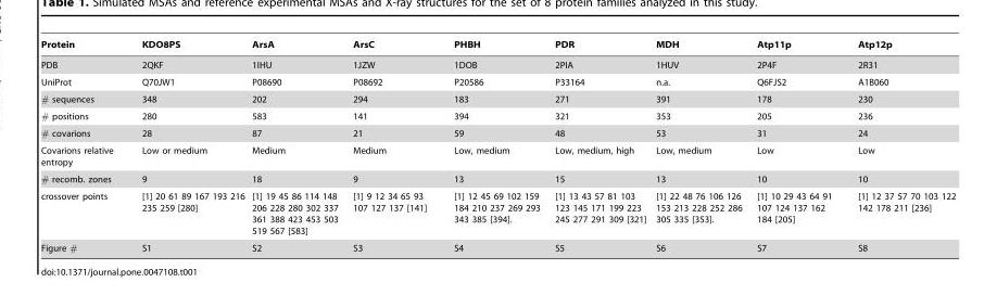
<table><thead><tr><td>Protein</td><td>KDO8PS</td><td>ArsA</td><td>ArsC</td><td>PHBH</td><td>PDR</td><td>MDH</td><td>Atp11p</td><td>Atp12p</td></tr></thead><tbody><tr><td>PDB</td><td>2QKF</td><td>1IHU</td><td>1JZW</td><td>1DOB</td><td>2PIA</td><td>1HUV</td><td>2P4F</td><td>2R31</td></tr><tr><td>UniProt</td><td>Q70JW1</td><td>P08690</td><td>P08692</td><td>P20586</td><td>P33164</td><td>n.a.</td><td>Q6FJS2</td><td>A1B060</td></tr><tr><td># sequences</td><td>348</td><td>202</td><td>294</td><td>183</td><td>271</td><td>391</td><td>178</td><td>230</td></tr><tr><td># positions</td><td>280</td><td>583</td><td>141</td><td>394</td><td>321</td><td>353</td><td>205</td><td>236</td></tr><tr><td># covarions</td><td>28</td><td>87</td><td>21</td><td>59</td><td>48</td><td>53</td><td>31</td><td>24</td></tr><tr><td>Covarions relative entropy</td><td>Low or medium</td><td>Medium</td><td>Medium</td><td>Low, medium</td><td>Low, medium, high</td><td>Low, medium</td><td>Low</td><td>Low</td></tr><tr><td># recomb. zones</td><td>9</td><td>18</td><td>9</td><td>13</td><td>15</td><td>13</td><td>10</td><td>10</td></tr><tr><td>crossover points</td><td>[1] 20 61 89 167 193 216 235 259 [280]</td><td>[1] 19 45 86 114 148 206 228 280 302 337 361 388 423 453 503 519 567 [583]</td><td>[1] 9 12 34 65 93 107 127 137 [141]</td><td>[1] 12 45 69 102 159 184 210 237 269 293 343 385 [394].</td><td>[1] 13 43 57 81 103 123 145 171 199 223 245 277 291 309 [321]</td><td>[1] 22 48 76 106 126 153 213 228 252 286 305 335 [353].</td><td>[1] 10 29 43 64 91 107 124 137 162 184 [205]</td><td>[1] 12 37 57 70 103 122 142 178 211 [236]</td></tr><tr><td>Figure #</td><td>S1</td><td>S2</td><td>S3</td><td>S4</td><td>S5</td><td>S6</td><td>S7</td><td>S8</td></tr></tbody></table>